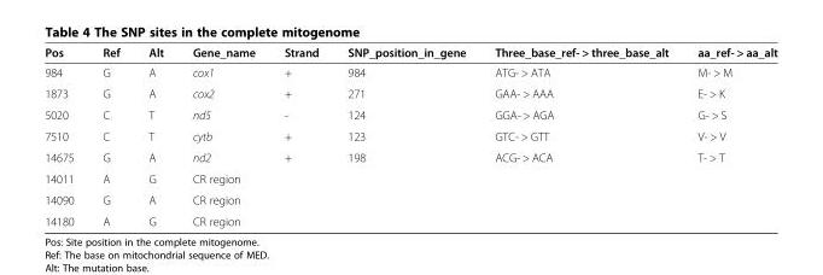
<table><thead><tr><td>Pos</td><td>Ref</td><td>Alt</td><td>Gene_name</td><td>Strand</td><td>SNP_position_in_gene</td><td>Three_base_ref- &gt; three_base_alt</td><td>aa_ref- &gt; aa_alt</td></tr></thead><tbody><tr><td>984</td><td>G</td><td>A</td><td>cox1</td><td>+</td><td>984</td><td>ATG- &gt; ATA</td><td>M- &gt; M</td></tr><tr><td>1873</td><td>G</td><td>A</td><td>cox2</td><td>+</td><td>271</td><td>GAA- &gt; AAA</td><td>E- &gt; K</td></tr><tr><td>5020</td><td>C</td><td>T</td><td>nd5</td><td>-</td><td>124</td><td>GGA- &gt; AGA</td><td>G- &gt; S</td></tr><tr><td>7510</td><td>C</td><td>T</td><td>cytb</td><td>+</td><td>123</td><td>GTC- &gt; GTT</td><td>V- &gt; V</td></tr><tr><td>14675</td><td>G</td><td>A</td><td>nd2</td><td>+</td><td>198</td><td>ACG- &gt; ACA</td><td>T- &gt; T</td></tr><tr><td>14011</td><td>A</td><td>G</td><td>CR region</td><td></td><td></td><td></td><td></td></tr><tr><td>14090</td><td>G</td><td>A</td><td>CR region</td><td></td><td></td><td></td><td></td></tr><tr><td>14180</td><td>A</td><td>G</td><td>CR region</td><td></td><td></td><td></td><td></td></tr></tbody></table>